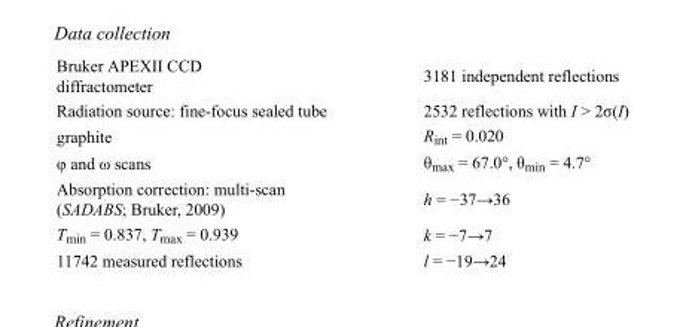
<table><tbody><tr><td>Bruker APEXII CCD diffractometer</td><td>3181 independent reflections</td></tr><tr><td>Radiation source: fine-focus sealed tube</td><td>2532 reflections with I &gt; 2σ(I)</td></tr><tr><td>graphite</td><td>R<sub>int</sub> = 0.020</td></tr><tr><td>φ and ω scans</td><td>θ<sub>max</sub> = 67.0°, θ<sub>min</sub> = 4.7°</td></tr><tr><td>Absorption correction: multi-scan (SADABS; Bruker, 2009)</td><td>h = −37→36</td></tr><tr><td>T<sub>min</sub> = 0.837, T<sub>max</sub> = 0.939</td><td>k = −7→7</td></tr><tr><td>11742 measured reflections</td><td>l = −19→24</td></tr></tbody></table>